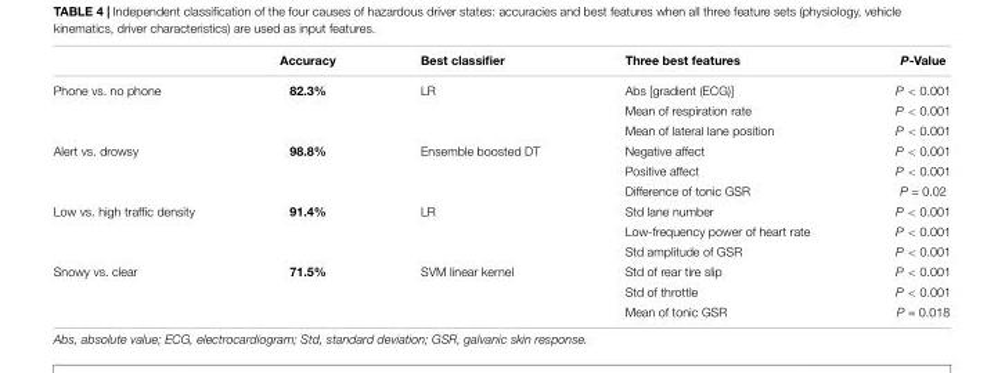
<table><thead><tr><td></td><td>Accuracy</td><td>Best classifier</td><td>Three best features</td><td>P-Value</td></tr></thead><tbody><tr><td rowspan="3">Phone vs. no phone</td><td>82.3%</td><td>LR</td><td>Abs [gradient (ECG)]</td><td>P &lt; 0.001</td></tr><tr><td></td><td></td><td>Mean of respiration rate</td><td>P &lt; 0.001</td></tr><tr><td></td><td></td><td>Mean of lateral lane position</td><td>P &lt; 0.001</td></tr><tr><td rowspan="3">Alert vs. drowsy</td><td>98.8%</td><td>Ensemble boosted DT</td><td>Negative affect</td><td>P &lt; 0.001</td></tr><tr><td></td><td></td><td>Positive affect</td><td>P &lt; 0.001</td></tr><tr><td></td><td></td><td>Difference of tonic GSR</td><td>P = 0.02</td></tr><tr><td rowspan="3">Low vs. high traffic density</td><td>91.4%</td><td>LR</td><td>Std lane number</td><td>P &lt; 0.001</td></tr><tr><td></td><td></td><td>Low-frequency power of heart rate</td><td>P &lt; 0.001</td></tr><tr><td></td><td></td><td>Std amplitude of GSR</td><td>P &lt; 0.001</td></tr><tr><td rowspan="3">Snowy vs. clear</td><td>71.5%</td><td>SVM linear kernel</td><td>Std of rear tire slip</td><td>P &lt; 0.001</td></tr><tr><td></td><td></td><td>Std of throttle</td><td>P &lt; 0.001</td></tr><tr><td></td><td></td><td>Mean of tonic GSR</td><td>P = 0.018</td></tr></tbody></table>